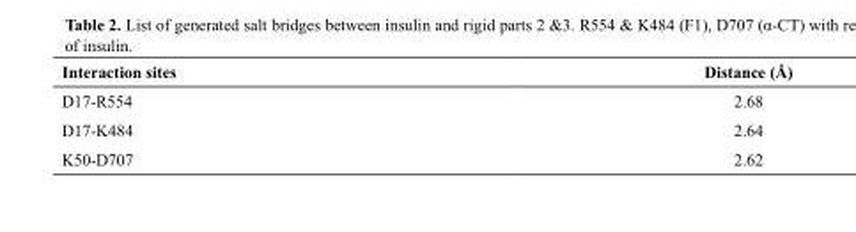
<table><thead><tr><td>Interaction sites</td><td>Distance (Å)</td></tr></thead><tbody><tr><td>D17-R554</td><td>2.68</td></tr><tr><td>D17-K484</td><td>2.64</td></tr><tr><td>K50-D707</td><td>2.62</td></tr></tbody></table>